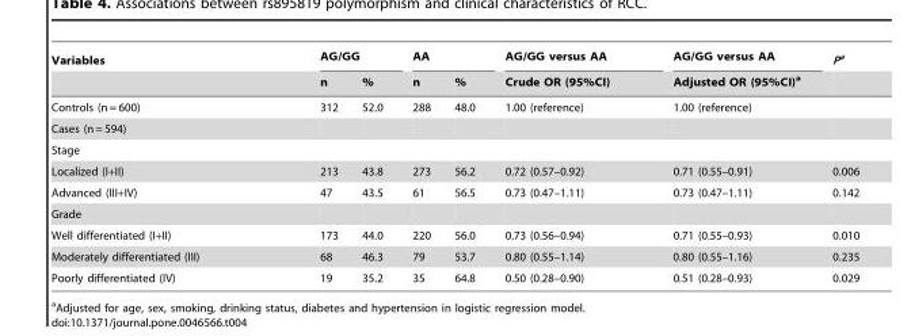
<table><thead><tr><td rowspan="2">Variables</td><td colspan="2">AG/GG</td><td colspan="2">AA</td><td rowspan="2">AG/GG versus AA Crude OR (95%CI)</td><td rowspan="2">AG/GG versus AA Adjusted OR (95%CI)<sup>a</sup></td><td rowspan="2">Pa</td></tr><tr><td>n</td><td>%</td><td>n</td><td>%</td></tr></thead><tbody><tr><td>Controls (n = 600)</td><td>312</td><td>52.0</td><td>288</td><td>48.0</td><td>1.00 (reference)</td><td>1.00 (reference)</td><td></td></tr><tr><td colspan="8">Cases (n = 594)</td></tr><tr><td colspan="8">Stage</td></tr><tr><td>Localized (I+II)</td><td>213</td><td>43.8</td><td>273</td><td>56.2</td><td>0.72 (0.57–0.92)</td><td>0.71 (0.55–0.91)</td><td>0.006</td></tr><tr><td>Advanced (III+IV)</td><td>47</td><td>43.5</td><td>61</td><td>56.5</td><td>0.73 (0.47–1.11)</td><td>0.73 (0.47–1.11)</td><td>0.142</td></tr><tr><td colspan="8">Grade</td></tr><tr><td>Well differentiated (I+II)</td><td>173</td><td>44.0</td><td>220</td><td>56.0</td><td>0.73 (0.56–0.94)</td><td>0.71 (0.55–0.93)</td><td>0.010</td></tr><tr><td>Moderately differentiated (III)</td><td>68</td><td>46.3</td><td>79</td><td>53.7</td><td>0.80 (0.55–1.14)</td><td>0.80 (0.55–1.16)</td><td>0.235</td></tr><tr><td>Poorly differentiated (IV)</td><td>19</td><td>35.2</td><td>35</td><td>64.8</td><td>0.50 (0.28–0.90)</td><td>0.51 (0.28–0.93)</td><td>0.029</td></tr></tbody></table>